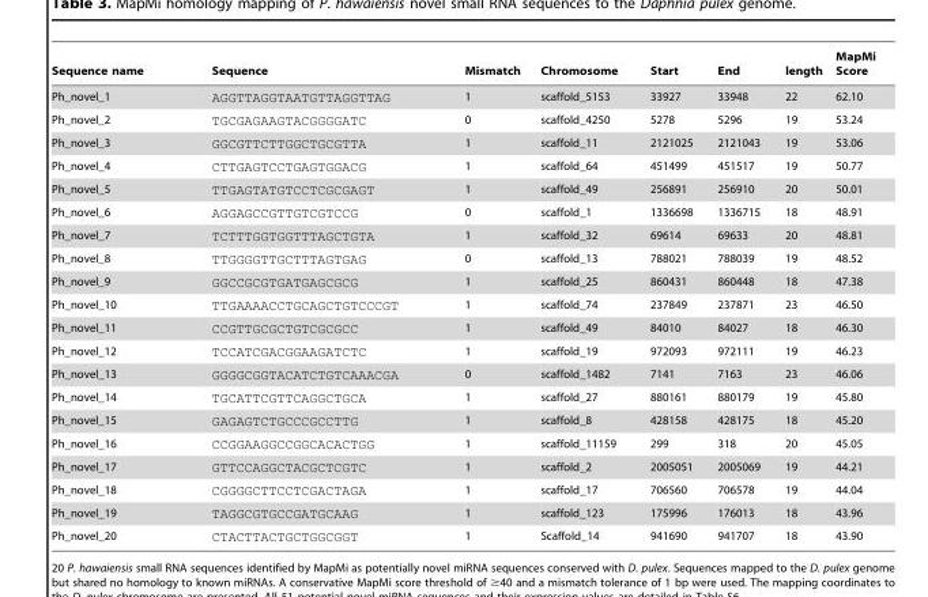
<table><thead><tr><td>Sequence name</td><td>Sequence</td><td>Mismatch</td><td>Chromosome</td><td>Start</td><td>End</td><td>length</td><td>MapMi Score</td></tr></thead><tbody><tr><td>Ph_novel_1</td><td>AGGTTAGGTAATGTTAGGTTAG</td><td>1</td><td>scaffold_5153</td><td>33927</td><td>33948</td><td>22</td><td>62.10</td></tr><tr><td>Ph_novel_2</td><td>TGCGAGAAGTACGGGGATC</td><td>0</td><td>scaffold_4250</td><td>5278</td><td>5296</td><td>19</td><td>53.24</td></tr><tr><td>Ph_novel_3</td><td>GGCGTTCTTGGCTGCGTTA</td><td>1</td><td>scaffold_11</td><td>2121025</td><td>2121043</td><td>19</td><td>53.06</td></tr><tr><td>Ph_novel_4</td><td>CTTGAGTCCTGAGTGGACG</td><td>1</td><td>scaffold_64</td><td>451499</td><td>451517</td><td>19</td><td>50.77</td></tr><tr><td>Ph_novel_5</td><td>TTGAGTATGTCCTCGCGAGT</td><td>1</td><td>scaffold_49</td><td>256891</td><td>256910</td><td>20</td><td>50.01</td></tr><tr><td>Ph_novel_6</td><td>AGGAGCCGTTGTCGTCCG</td><td>0</td><td>scaffold_1</td><td>1336698</td><td>1336715</td><td>18</td><td>48.91</td></tr><tr><td>Ph_novel_7</td><td>TCTTTGGTGGTTTAGCTGTA</td><td>1</td><td>scaffold_32</td><td>69614</td><td>69633</td><td>20</td><td>48.81</td></tr><tr><td>Ph_novel_8</td><td>TTGGGGTTGCTTTAGTGAG</td><td>0</td><td>scaffold_13</td><td>788021</td><td>788039</td><td>19</td><td>48.52</td></tr><tr><td>Ph_novel_9</td><td>GGCCGCGTGATGAGCGCG</td><td>1</td><td>scaffold_25</td><td>860431</td><td>860448</td><td>18</td><td>47.38</td></tr><tr><td>Ph_novel_10</td><td>TTGAAAACCTGCAGCTGTCCCGT</td><td>1</td><td>scaffold_74</td><td>237849</td><td>237871</td><td>23</td><td>46.50</td></tr><tr><td>Ph_novel_11</td><td>CCGTTGCGCTGTCGCGCC</td><td>1</td><td>scaffold_49</td><td>84010</td><td>84027</td><td>18</td><td>46.30</td></tr><tr><td>Ph_novel_12</td><td>TCCATCGACGGAAGATCTC</td><td>1</td><td>scaffold_19</td><td>972093</td><td>972111</td><td>19</td><td>46.23</td></tr><tr><td>Ph_novel_13</td><td>GGGGCGGTACATCTGTCAAACGA</td><td>0</td><td>scaffold_1482</td><td>7141</td><td>7163</td><td>23</td><td>46.06</td></tr><tr><td>Ph_novel_14</td><td>TGCATTCGTTCAGGCTGCA</td><td>1</td><td>scaffold_27</td><td>880161</td><td>880179</td><td>19</td><td>45.80</td></tr><tr><td>Ph_novel_15</td><td>GAGAGTCTGCCCGCCTTG</td><td>1</td><td>scaffold_8</td><td>428158</td><td>428175</td><td>18</td><td>45.20</td></tr><tr><td>Ph_novel_16</td><td>CCGGAAGGCCGGCACACTGG</td><td>1</td><td>scaffold_11159</td><td>299</td><td>318</td><td>20</td><td>45.05</td></tr><tr><td>Ph_novel_17</td><td>GTTCCAGGCTACGCTCGTC</td><td>1</td><td>scaffold_2</td><td>2005051</td><td>2005069</td><td>19</td><td>44.21</td></tr><tr><td>Ph_novel_18</td><td>CGGGGCTTCCTCGACTAGA</td><td>1</td><td>scaffold_17</td><td>706560</td><td>706578</td><td>19</td><td>44.04</td></tr><tr><td>Ph_novel_19</td><td>TAGGCGTGCCGATGCAAG</td><td>1</td><td>scaffold_123</td><td>175996</td><td>176013</td><td>18</td><td>43.96</td></tr><tr><td>Ph_novel_20</td><td>CTACTTACTGCTGGCGGT</td><td>1</td><td>Scaffold_14</td><td>941690</td><td>941707</td><td>18</td><td>43.90</td></tr></tbody></table>